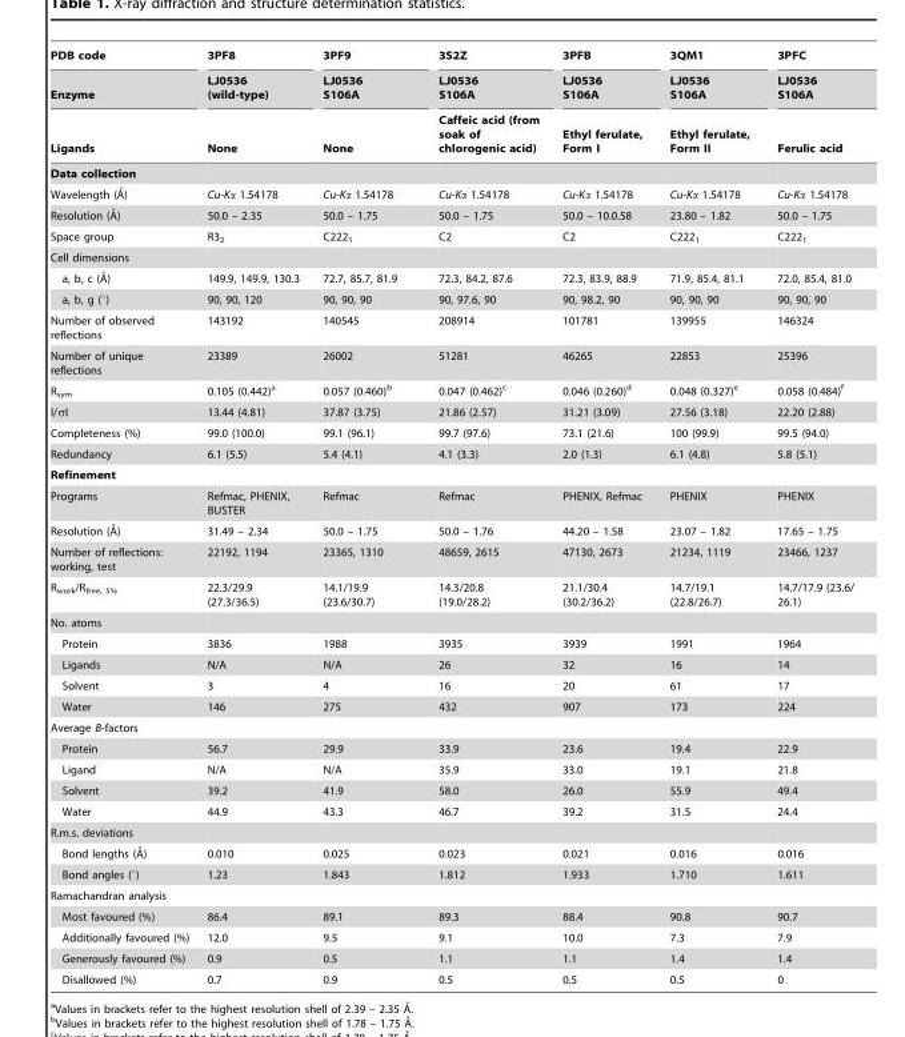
<table><thead><tr><td rowspan="3">PDB code Enzyme Ligands</td><td rowspan="3">3PF8 LJ0536 (wild-type) None</td><td rowspan="3">3PF9 LJ0536 S106A None</td><td rowspan="3">3S2Z LJ0536 S106A Caffeic acid (from soak of chlorogenic acid)</td><td rowspan="3">3PFB LJ0536 S106A Ethyl ferulate, Form I</td><td rowspan="3">3QM1 LJ0536 S106A Ethyl ferulate, Form II</td><td rowspan="3">3PFC LJ0536 S106A Ferulic acid</td></tr><tr></tr><tr></tr></thead><tbody><tr><td colspan="7">Data collection</td></tr><tr><td>Wavelength (A˚)</td><td>Cu-Kα 1.54178</td><td>Cu-Kα 1.54178</td><td>Cu-Kα 1.54178</td><td>Cu-Kα 1.54178</td><td>Cu-Kα 1.54178</td><td>Cu-Kα 1.54178</td></tr><tr><td>Resolution (A˚)</td><td>50.0 – 2.35</td><td>50.0 – 1.75</td><td>50.0 – 1.75</td><td>50.0 – 10.0.58</td><td>23.80 – 1.82</td><td>50.0 – 1.75</td></tr><tr><td>Space group</td><td>R3<sub>2</sub></td><td>C222<sub>1</sub></td><td>C2</td><td>C2</td><td>C222<sub>1</sub></td><td>C222<sub>1</sub></td></tr><tr><td colspan="7">Cell dimensions</td></tr><tr><td>a, b, c (A˚)</td><td>149.9, 149.9, 130.3</td><td>72.7, 85.7, 81.9</td><td>72.3, 84.2, 87.6</td><td>72.3, 83.9, 88.9</td><td>71.9, 85.4, 81.1</td><td>72.0, 85.4, 81.0</td></tr><tr><td>a, b, g (°)</td><td>90, 90, 120</td><td>90, 90, 90</td><td>90, 97.6, 90</td><td>90, 98.2, 90</td><td>90, 90, 90</td><td>90, 90, 90</td></tr><tr><td>Number of observed reflections</td><td>143192</td><td>140545</td><td>208914</td><td>101781</td><td>139955</td><td>146324</td></tr><tr><td>Number of unique reflections</td><td>23389</td><td>26002</td><td>51281</td><td>46265</td><td>22853</td><td>25396</td></tr><tr><td>R<sub>sym</sub></td><td>0.105 (0.442)<sup>a</sup></td><td>0.057 (0.460)<sup>b</sup></td><td>0.047 (0.462)<sup>c</sup></td><td>0.046 (0.260)<sup>d</sup></td><td>0.048 (0.327)<sup>e</sup></td><td>0.058 (0.484)<sup>f</sup></td></tr><tr><td>I/σI</td><td>13.44 (4.81)</td><td>37.87 (3.75)</td><td>21.86 (2.57)</td><td>31.21 (3.09)</td><td>27.56 (3.18)</td><td>22.20 (2.88)</td></tr><tr><td>Completeness (%)</td><td>99.0 (100.0)</td><td>99.1 (96.1)</td><td>99.7 (97.6)</td><td>73.1 (21.6)</td><td>100 (99.9)</td><td>99.5 (94.0)</td></tr><tr><td>Redundancy</td><td>6.1 (5.5)</td><td>5.4 (4.1)</td><td>4.1 (3.3)</td><td>2.0 (1.3)</td><td>6.1 (4.8)</td><td>5.8 (5.1)</td></tr><tr><td colspan="7">Refinement</td></tr><tr><td>Programs</td><td>Refmac, PHENIX, BUSTER</td><td>Refmac</td><td>Refmac</td><td>PHENIX, Refmac</td><td>PHENIX</td><td>PHENIX</td></tr><tr><td>Resolution (A˚)</td><td>31.49 – 2.34</td><td>50.0 – 1.75</td><td>50.0 – 1.76</td><td>44.20 – 1.58</td><td>23.07 – 1.82</td><td>17.65 – 1.75</td></tr><tr><td>Number of reflections: working, test</td><td>22192, 1194</td><td>23365, 1310</td><td>48659, 2615</td><td>47130, 2673</td><td>21234, 1119</td><td>23466, 1237</td></tr><tr><td>R<sub>work</sub>/R<sub>free, 5%</sub></td><td>22.3/29.9 (27.3/36.5)</td><td>14.1/19.9 (23.6/30.7)</td><td>14.3/20.8 (19.0/28.2)</td><td>21.1/30.4 (30.2/36.2)</td><td>14.7/19.1 (22.8/26.7)</td><td>14.7/17.9 (23.6/ 26.1)</td></tr><tr><td colspan="7">No. atoms</td></tr><tr><td>Protein</td><td>3836</td><td>1988</td><td>3935</td><td>3939</td><td>1991</td><td>1964</td></tr><tr><td>Ligands</td><td>N/A</td><td>N/A</td><td>26</td><td>32</td><td>16</td><td>14</td></tr><tr><td>Solvent</td><td>3</td><td>4</td><td>16</td><td>20</td><td>61</td><td>17</td></tr><tr><td>Water</td><td>146</td><td>275</td><td>432</td><td>907</td><td>173</td><td>224</td></tr><tr><td colspan="7">Average B-factors</td></tr><tr><td>Protein</td><td>56.7</td><td>29.9</td><td>33.9</td><td>23.6</td><td>19.4</td><td>22.9</td></tr><tr><td>Ligand</td><td>N/A</td><td>N/A</td><td>35.9</td><td>33.0</td><td>19.1</td><td>21.8</td></tr><tr><td>Solvent</td><td>39.2</td><td>41.9</td><td>58.0</td><td>26.0</td><td>55.9</td><td>49.4</td></tr><tr><td>Water</td><td>44.9</td><td>43.3</td><td>46.7</td><td>39.2</td><td>31.5</td><td>24.4</td></tr><tr><td colspan="7">R.m.s. deviations</td></tr><tr><td>Bond lengths (A˚)</td><td>0.010</td><td>0.025</td><td>0.023</td><td>0.021</td><td>0.016</td><td>0.016</td></tr><tr><td>Bond angles (°)</td><td>1.23</td><td>1.843</td><td>1.812</td><td>1.933</td><td>1.710</td><td>1.611</td></tr><tr><td colspan="7">Ramachandran analysis</td></tr><tr><td>Most favoured (%)</td><td>86.4</td><td>89.1</td><td>89.3</td><td>88.4</td><td>90.8</td><td>90.7</td></tr><tr><td>Additionally favoured (%)</td><td>12.0</td><td>9.5</td><td>9.1</td><td>10.0</td><td>7.3</td><td>7.9</td></tr><tr><td>Generously favoured (%)</td><td>0.9</td><td>0.5</td><td>1.1</td><td>1.1</td><td>1.4</td><td>1.4</td></tr><tr><td>Disallowed (%)</td><td>0.7</td><td>0.9</td><td>0.5</td><td>0.5</td><td>0.5</td><td>0</td></tr></tbody></table>